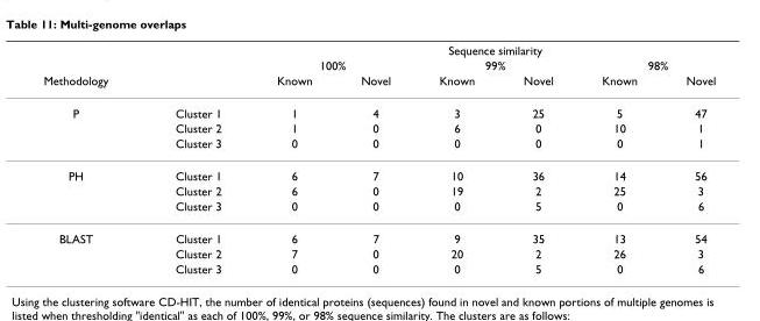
<table><thead><tr><td rowspan="3">Methodology</td><td rowspan="3"></td><td colspan="6">Sequence similarity</td></tr><tr><td colspan="2">100%</td><td colspan="2">99%</td><td colspan="2">98%</td></tr><tr><td>Known</td><td>Novel</td><td>Known</td><td>Novel</td><td>Known</td><td>Novel</td></tr></thead><tbody><tr><td rowspan="3">P</td><td>Cluster 1</td><td>1</td><td>4</td><td>3</td><td>25</td><td>5</td><td>47</td></tr><tr><td>Cluster 2</td><td>1</td><td>0</td><td>6</td><td>0</td><td>10</td><td>1</td></tr><tr><td>Cluster 3</td><td>0</td><td>0</td><td>0</td><td>0</td><td>0</td><td>1</td></tr><tr><td rowspan="3">PH</td><td>Cluster 1</td><td>6</td><td>7</td><td>10</td><td>36</td><td>14</td><td>56</td></tr><tr><td>Cluster 2</td><td>6</td><td>0</td><td>19</td><td>2</td><td>25</td><td>3</td></tr><tr><td>Cluster 3</td><td>0</td><td>0</td><td>0</td><td>5</td><td>0</td><td>6</td></tr><tr><td rowspan="3">BLAST</td><td>Cluster 1</td><td>6</td><td>7</td><td>9</td><td>35</td><td>13</td><td>54</td></tr><tr><td>Cluster 2</td><td>7</td><td>0</td><td>20</td><td>2</td><td>26</td><td>3</td></tr><tr><td>Cluster 3</td><td>0</td><td>0</td><td>0</td><td>5</td><td>0</td><td>6</td></tr></tbody></table>